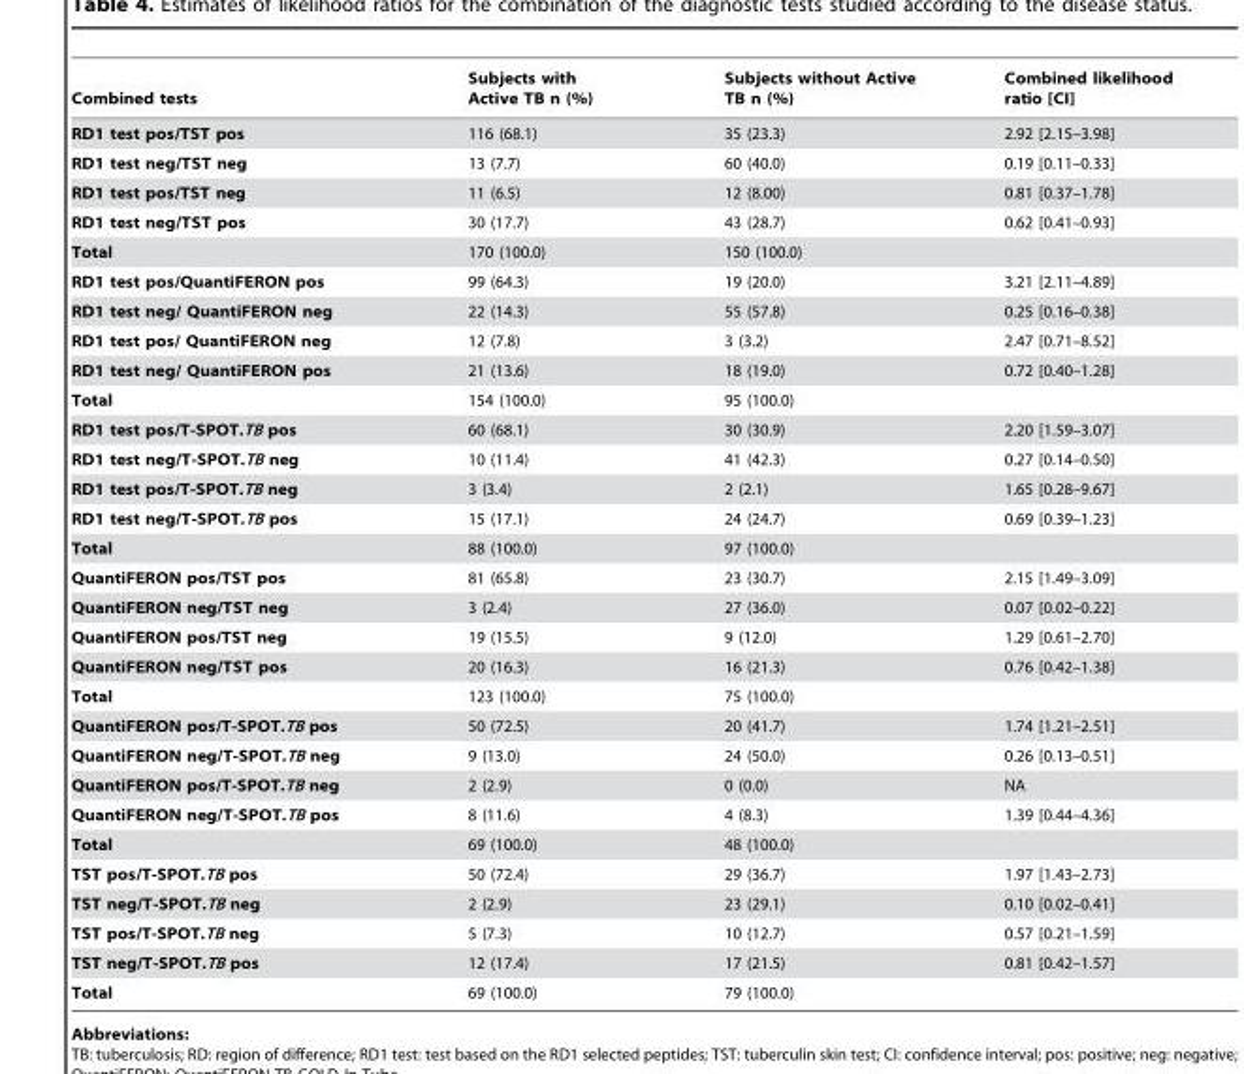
<table><thead><tr><td>Combined tests</td><td>Subjects with Active TB n (%)</td><td>Subjects without Active TB n (%)</td><td>Combined likelihood ratio [CI]</td></tr></thead><tbody><tr><td>RD1 test pos/TST pos</td><td>116 (68.1)</td><td>35 (23.3)</td><td>2.92 [2.15–3.98]</td></tr><tr><td>RD1 test neg/TST neg</td><td>13 (7.7)</td><td>60 (40.0)</td><td>0.19 [0.11–0.33]</td></tr><tr><td>RD1 test pos/TST neg</td><td>11 (6.5)</td><td>12 (8.00)</td><td>0.81 [0.37–1.78]</td></tr><tr><td>RD1 test neg/TST pos</td><td>30 (17.7)</td><td>43 (28.7)</td><td>0.62 [0.41–0.93]</td></tr><tr><td>Total</td><td>170 (100.0)</td><td>150 (100.0)</td><td></td></tr><tr><td>RD1 test pos/QuantiFERON pos</td><td>99 (64.3)</td><td>19 (20.0)</td><td>3.21 [2.11–4.89]</td></tr><tr><td>RD1 test neg/ QuantiFERON neg</td><td>22 (14.3)</td><td>55 (57.8)</td><td>0.25 [0.16–0.38]</td></tr><tr><td>RD1 test pos/ QuantiFERON neg</td><td>12 (7.8)</td><td>3 (3.2)</td><td>2.47 [0.71–8.52]</td></tr><tr><td>RD1 test neg/ QuantiFERON pos</td><td>21 (13.6)</td><td>18 (19.0)</td><td>0.72 [0.40–1.28]</td></tr><tr><td>Total</td><td>154 (100.0)</td><td>95 (100.0)</td><td></td></tr><tr><td>RD1 test pos/T-SPOT.TB pos</td><td>60 (68.1)</td><td>30 (30.9)</td><td>2.20 [1.59–3.07]</td></tr><tr><td>RD1 test neg/T-SPOT.TB neg</td><td>10 (11.4)</td><td>41 (42.3)</td><td>0.27 [0.14–0.50]</td></tr><tr><td>RD1 test pos/T-SPOT.TB neg</td><td>3 (3.4)</td><td>2 (2.1)</td><td>1.65 [0.28–9.67]</td></tr><tr><td>RD1 test neg/T-SPOT.TB pos</td><td>15 (17.1)</td><td>24 (24.7)</td><td>0.69 [0.39–1.23]</td></tr><tr><td>Total</td><td>88 (100.0)</td><td>97 (100.0)</td><td></td></tr><tr><td>QuantiFERON pos/TST pos</td><td>81 (65.8)</td><td>23 (30.7)</td><td>2.15 [1.49–3.09]</td></tr><tr><td>QuantiFERON neg/TST neg</td><td>3 (2.4)</td><td>27 (36.0)</td><td>0.07 [0.02–0.22]</td></tr><tr><td>QuantiFERON pos/TST neg</td><td>19 (15.5)</td><td>9 (12.0)</td><td>1.29 [0.61–2.70]</td></tr><tr><td>QuantiFERON neg/TST pos</td><td>20 (16.3)</td><td>16 (21.3)</td><td>0.76 [0.42–1.38]</td></tr><tr><td>Total</td><td>123 (100.0)</td><td>75 (100.0)</td><td></td></tr><tr><td>QuantiFERON pos/T-SPOT.TB pos</td><td>50 (72.5)</td><td>20 (41.7)</td><td>1.74 [1.21–2.51]</td></tr><tr><td>QuantiFERON neg/T-SPOT.TB neg</td><td>9 (13.0)</td><td>24 (50.0)</td><td>0.26 [0.13–0.51]</td></tr><tr><td>QuantiFERON pos/T-SPOT.TB neg</td><td>2 (2.9)</td><td>0 (0.0)</td><td>NA</td></tr><tr><td>QuantiFERON neg/T-SPOT.TB pos</td><td>8 (11.6)</td><td>4 (8.3)</td><td>1.39 [0.44–4.36]</td></tr><tr><td>Total</td><td>69 (100.0)</td><td>48 (100.0)</td><td></td></tr><tr><td>TST pos/T-SPOT.TB pos</td><td>50 (72.4)</td><td>29 (36.7)</td><td>1.97 [1.43–2.73]</td></tr><tr><td>TST neg/T-SPOT.TB neg</td><td>2 (2.9)</td><td>23 (29.1)</td><td>0.10 [0.02–0.41]</td></tr><tr><td>TST pos/T-SPOT.TB neg</td><td>5 (7.3)</td><td>10 (12.7)</td><td>0.57 [0.21–1.59]</td></tr><tr><td>TST neg/T-SPOT.TB pos</td><td>12 (17.4)</td><td>17 (21.5)</td><td>0.81 [0.42–1.57]</td></tr><tr><td>Total</td><td>69 (100.0)</td><td>79 (100.0)</td><td></td></tr></tbody></table>